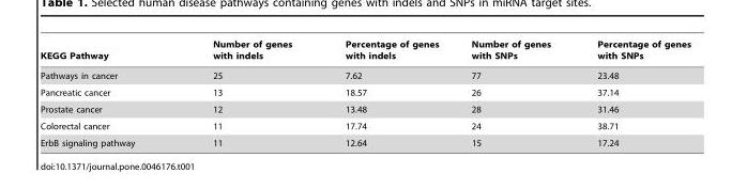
<table><thead><tr><td>KEGG Pathway</td><td>Number of genes with indels</td><td>Percentage of genes with indels</td><td>Number of genes with SNPs</td><td>Percentage of genes with SNPs</td></tr></thead><tbody><tr><td>Pathways in cancer</td><td>25</td><td>7.62</td><td>77</td><td>23.48</td></tr><tr><td>Pancreatic cancer</td><td>13</td><td>18.57</td><td>26</td><td>37.14</td></tr><tr><td>Prostate cancer</td><td>12</td><td>13.48</td><td>28</td><td>31.46</td></tr><tr><td>Colorectal cancer</td><td>11</td><td>17.74</td><td>24</td><td>38.71</td></tr><tr><td>ErbB signaling pathway</td><td>11</td><td>12.64</td><td>15</td><td>17.24</td></tr></tbody></table>